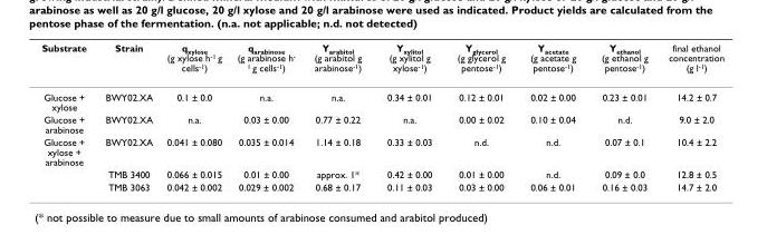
<table><thead><tr><td>Substrate</td><td>Strain</td><td>q<sub>xylose</sub> (g xylose h<sup>-1</sup> g cells<sup>-1</sup>)</td><td>q<sub>arabinose</sub> (g arabinose h<sup>- 1</sup> g cells<sup>-1</sup>)</td><td>Y<sub>arabitol</sub> (g arabitol g arabinose<sup>-1</sup>)</td><td>Y<sub>xylitol</sub> (g xylitol g xylose<sup>-1</sup>)</td><td>Y<sub>glycerol</sub> (g glycerol g pentose<sup>-1</sup>)</td><td>Y<sub>acetate</sub> (g acetate g pentose<sup>-1</sup>)</td><td>Y<sub>ethanol</sub> (g ethanol g pentose<sup>-1</sup>)</td><td>final ethanol concentration (g l<sup>-1</sup>)</td></tr></thead><tbody><tr><td>Glucose + xylose</td><td>BWY02.XA</td><td>0.1 ± 0.0</td><td>n.a.</td><td>n.a.</td><td>0.34 ± 0.01</td><td>0.12 ± 0.01</td><td>0.02 ± 0.00</td><td>0.23 ± 0.01</td><td>14.2 ± 0.7</td></tr><tr><td>Glucose + arabinose</td><td>BWY02.XA</td><td>n.a.</td><td>0.03 ± 0.00</td><td>0.77 ± 0.22</td><td>n.a.</td><td>0.00 ± 0.02</td><td>0.10 ± 0.04</td><td>n.d.</td><td>9.0 ± 2.0</td></tr><tr><td rowspan="3">Glucose + xylose + arabinose</td><td>BWY02.XA</td><td>0.041 ± 0.080</td><td>0.035 ± 0.014</td><td>1.14 ± 0.18</td><td>0.33 ± 0.03</td><td>n.d.</td><td>n.d.</td><td>0.07 ± 0.1</td><td>10.4 ± 2.2</td></tr><tr><td>TMB 3400</td><td>0.066 ± 0.015</td><td>0.01 ± 0.00</td><td>approx. 1*</td><td>0.42 ± 0.00</td><td>0.01 ± 0.00</td><td>n.d.</td><td>0.09 ± 0.0</td><td>12.8 ± 0.5</td></tr><tr><td>TMB 3063</td><td>0.042 ± 0.002</td><td>0.029 ± 0.002</td><td>0.68 ± 0.17</td><td>0.11 ± 0.03</td><td>0.03 ± 0.00</td><td>0.06 ± 0.01</td><td>0.16 ± 0.03</td><td>14.7 ± 2.0</td></tr></tbody></table>